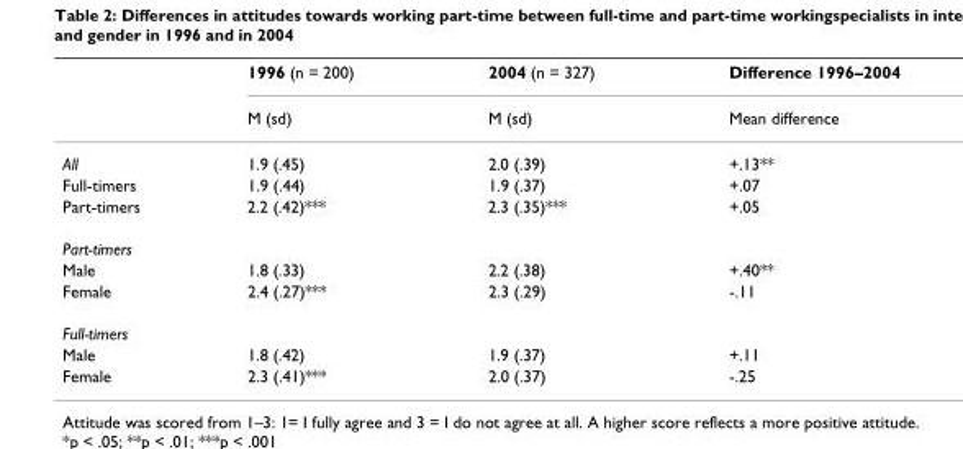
<table><thead><tr><td rowspan="2"></td><td rowspan="2">1996 (n = 200) M (sd)</td><td rowspan="2">2004 (n = 327) M (sd)</td><td rowspan="2">Difference 1996–2004 Mean difference</td></tr><tr></tr></thead><tbody><tr><td>All</td><td>1.9 (.45)</td><td>2.0 (.39)</td><td>+.13**</td></tr><tr><td>Full-timers</td><td>1.9 (.44)</td><td>1.9 (.37)</td><td>+.07</td></tr><tr><td>Part-timers</td><td>2.2 (.42)***</td><td>2.3 (.35)***</td><td>+.05</td></tr><tr><td colspan="4">Part-timers</td></tr><tr><td>Male</td><td>1.8 (.33)</td><td>2.2 (.38)</td><td>+.40**</td></tr><tr><td>Female</td><td>2.4 (.27)***</td><td>2.3 (.29)</td><td>-.11</td></tr><tr><td colspan="4">Full-timers</td></tr><tr><td>Male</td><td>1.8 (.42)</td><td>1.9 (.37)</td><td>+.11</td></tr><tr><td>Female</td><td>2.3 (.41)***</td><td>2.0 (.37)</td><td>-.25</td></tr></tbody></table>